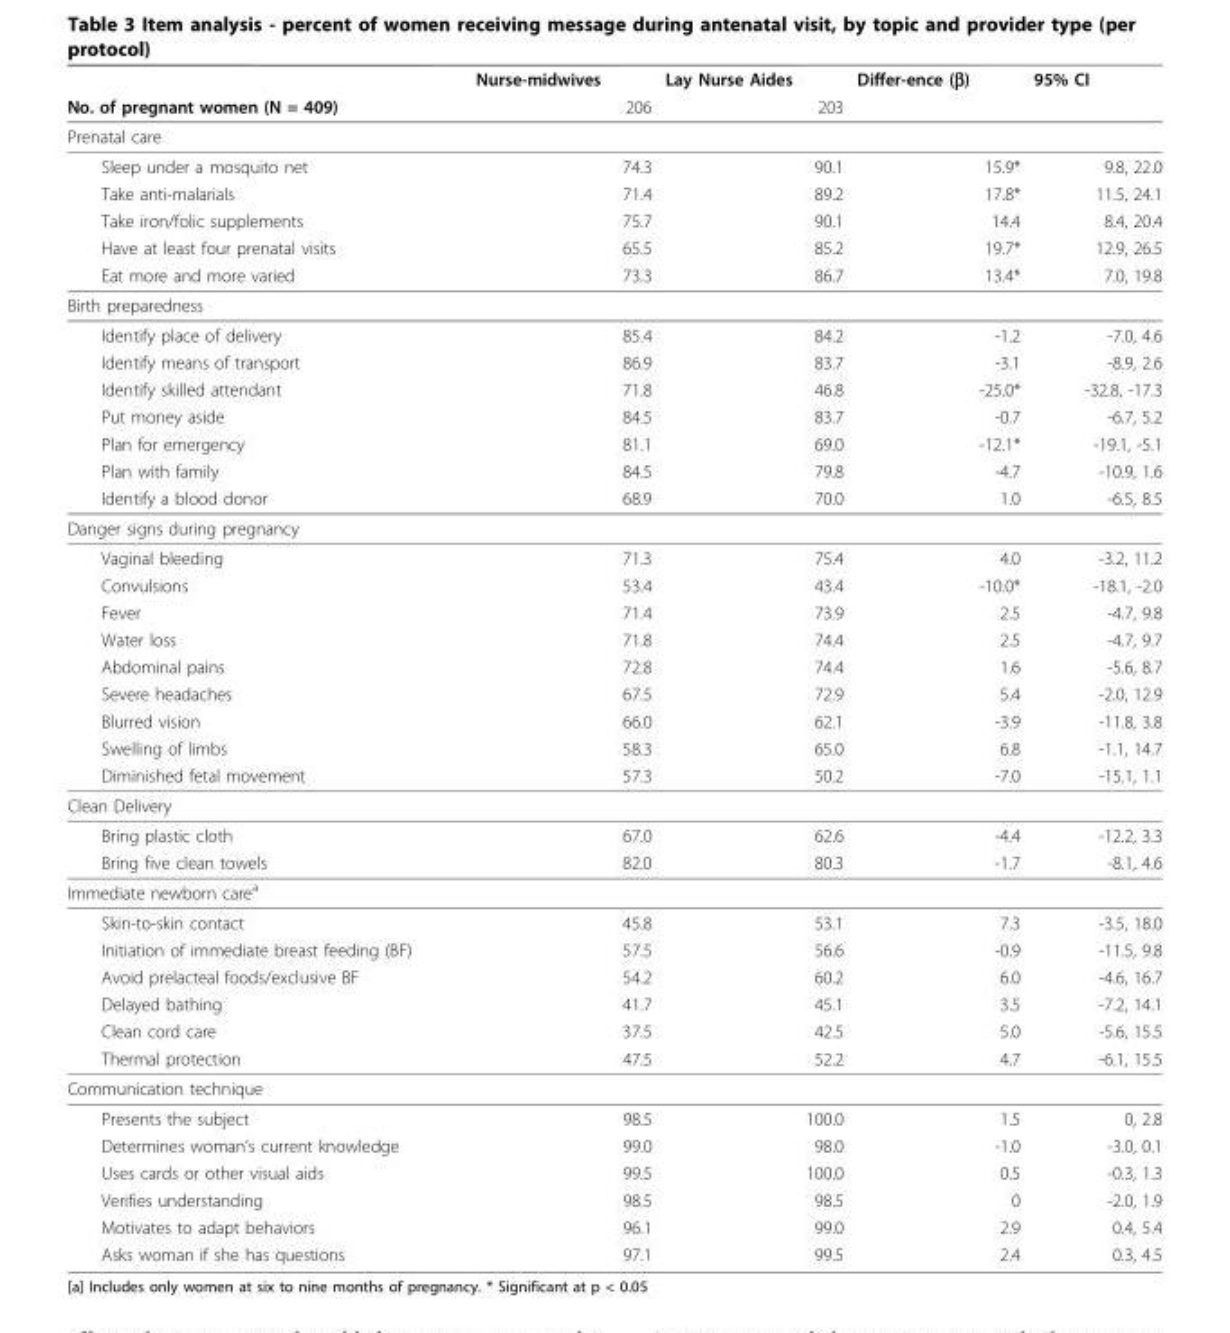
<table><thead><tr><td rowspan="2">No. of pregnant women (N = 409)</td><td rowspan="2">Nurse-midwives 206</td><td rowspan="2">Lay Nurse Aides 203</td><td rowspan="2">Differ-ence (β)</td><td rowspan="2">95% CI</td></tr><tr></tr></thead><tbody><tr><td colspan="5">Prenatal care</td></tr><tr><td>Sleep under a mosquito net</td><td>74.3</td><td>90.1</td><td>15.9*</td><td>9.8, 22.0</td></tr><tr><td>Take anti-malarials</td><td>71.4</td><td>89.2</td><td>17.8*</td><td>11.5, 24.1</td></tr><tr><td>Take iron/folic supplements</td><td>75.7</td><td>90.1</td><td>14.4</td><td>8.4, 20.4</td></tr><tr><td>Have at least four prenatal visits</td><td>65.5</td><td>85.2</td><td>19.7*</td><td>12.9, 26.5</td></tr><tr><td>Eat more and more varied</td><td>73.3</td><td>86.7</td><td>13.4*</td><td>7.0, 19.8</td></tr><tr><td colspan="5">Birth preparedness</td></tr><tr><td>Identify place of delivery</td><td>85.4</td><td>84.2</td><td>-1.2</td><td>-7.0, 4.6</td></tr><tr><td>Identify means of transport</td><td>86.9</td><td>83.7</td><td>-3.1</td><td>-8.9, 2.6</td></tr><tr><td>Identify skilled attendant</td><td>71.8</td><td>46.8</td><td>-25.0*</td><td>-32.8, -17.3</td></tr><tr><td>Put money aside</td><td>84.5</td><td>83.7</td><td>-0.7</td><td>-6.7, 5.2</td></tr><tr><td>Plan for emergency</td><td>81.1</td><td>69.0</td><td>-12.1*</td><td>-19.1, -5.1</td></tr><tr><td>Plan with family</td><td>84.5</td><td>79.8</td><td>-4.7</td><td>-10.9, 1.6</td></tr><tr><td>Identify a blood donor</td><td>68.9</td><td>70.0</td><td>1.0</td><td>-6.5, 8.5</td></tr><tr><td colspan="5">Danger signs during pregnancy</td></tr><tr><td>Vaginal bleeding</td><td>71.3</td><td>75.4</td><td>4.0</td><td>-3.2, 11.2</td></tr><tr><td>Convulsions</td><td>53.4</td><td>43.4</td><td>-10.0*</td><td>-18.1, -2.0</td></tr><tr><td>Fever</td><td>71.4</td><td>73.9</td><td>2.5</td><td>-4.7, 9.8</td></tr><tr><td>Water loss</td><td>71.8</td><td>74.4</td><td>2.5</td><td>-4.7, 9.7</td></tr><tr><td>Abdominal pains</td><td>72.8</td><td>74.4</td><td>1.6</td><td>-5.6, 8.7</td></tr><tr><td>Severe headaches</td><td>67.5</td><td>72.9</td><td>5.4</td><td>-2.0, 12.9</td></tr><tr><td>Blurred vision</td><td>66.0</td><td>62.1</td><td>-3.9</td><td>-11.8, 3.8</td></tr><tr><td>Swelling of limbs</td><td>58.3</td><td>65.0</td><td>6.8</td><td>-1.1, 14.7</td></tr><tr><td>Diminished fetal movement</td><td>57.3</td><td>50.2</td><td>-7.0</td><td>-15.1, 1.1</td></tr><tr><td colspan="5">Clean Delivery</td></tr><tr><td>Bring plastic cloth</td><td>67.0</td><td>62.6</td><td>-4.4</td><td>-12.2, 3.3</td></tr><tr><td>Bring five clean towels</td><td>82.0</td><td>80.3</td><td>-1.7</td><td>-8.1, 4.6</td></tr><tr><td colspan="5">Immediate newborn care<sup>a</sup></td></tr><tr><td>Skin-to-skin contact</td><td>45.8</td><td>53.1</td><td>7.3</td><td>-3.5, 18.0</td></tr><tr><td>Initiation of immediate breast feeding (BF)</td><td>57.5</td><td>56.6</td><td>-0.9</td><td>-11.5, 9.8</td></tr><tr><td>Avoid prelacteal foods/exclusive BF</td><td>54.2</td><td>60.2</td><td>6.0</td><td>-4.6, 16.7</td></tr><tr><td>Delayed bathing</td><td>41.7</td><td>45.1</td><td>3.5</td><td>-7.2, 14.1</td></tr><tr><td>Clean cord care</td><td>37.5</td><td>42.5</td><td>5.0</td><td>-5.6, 15.5</td></tr><tr><td>Thermal protection</td><td>47.5</td><td>52.2</td><td>4.7</td><td>-6.1, 15.5</td></tr><tr><td colspan="5">Communication technique</td></tr><tr><td>Presents the subject</td><td>98.5</td><td>100.0</td><td>1.5</td><td>0, 2.8</td></tr><tr><td>Determines woman’s current knowledge</td><td>99.0</td><td>98.0</td><td>-1.0</td><td>-3.0, 0.1</td></tr><tr><td>Uses cards or other visual aids</td><td>99.5</td><td>100.0</td><td>0.5</td><td>-0.3, 1.3</td></tr><tr><td>Verifies understanding</td><td>98.5</td><td>98.5</td><td>0</td><td>-2.0, 1.9</td></tr><tr><td>Motivates to adapt behaviors</td><td>96.1</td><td>99.0</td><td>2.9</td><td>0.4, 5.4</td></tr><tr><td>Asks woman if she has questions</td><td>97.1</td><td>99.5</td><td>2.4</td><td>0.3, 4.5</td></tr></tbody></table>